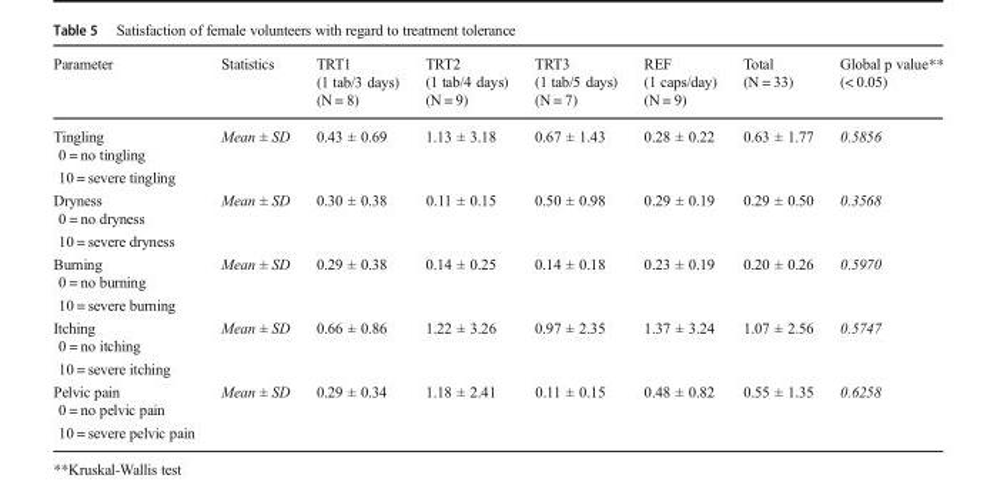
<table><thead><tr><td>Parameter</td><td>Statistics</td><td>TRT1 (1 tab/3 days) (N = 8)</td><td>TRT2 (1 tab/4 days) (N = 9)</td><td>TRT3 (1 tab/5 days) (N = 7)</td><td>REF (1 caps/day) (N = 9)</td><td>Total (N = 33)</td><td>Global p value** (&lt; 0.05)</td></tr></thead><tbody><tr><td>Tingling</td><td rowspan="3">Mean ± SD</td><td rowspan="3">0.43 ± 0.69</td><td rowspan="3">1.13 ± 3.18</td><td rowspan="3">0.67 ± 1.43</td><td rowspan="3">0.28 ± 0.22</td><td rowspan="3">0.63 ± 1.77</td><td rowspan="3">0.5856</td></tr><tr><td>0 = no tingling</td></tr><tr><td>10 = severe tingling</td></tr><tr><td>Dryness</td><td rowspan="3">Mean ± SD</td><td rowspan="3">0.30 ± 0.38</td><td rowspan="3">0.11 ± 0.15</td><td rowspan="3">0.50 ± 0.98</td><td rowspan="3">0.29 ± 0.19</td><td rowspan="3">0.29 ± 0.50</td><td rowspan="3">0.3568</td></tr><tr><td>0 = no dryness</td></tr><tr><td>10 = severe dryness</td></tr><tr><td>Burning</td><td rowspan="3">Mean ± SD</td><td rowspan="3">0.29 ± 0.38</td><td rowspan="3">0.14 ± 0.25</td><td rowspan="3">0.14 ± 0.18</td><td rowspan="3">0.23 ± 0.19</td><td rowspan="3">0.20 ± 0.26</td><td rowspan="3">0.5970</td></tr><tr><td>0 = no burning</td></tr><tr><td>10 = severe burning</td></tr><tr><td>Itching</td><td rowspan="3">Mean ± SD</td><td rowspan="3">0.66 ± 0.86</td><td rowspan="3">1.22 ± 3.26</td><td rowspan="3">0.97 ± 2.35</td><td rowspan="3">1.37 ± 3.24</td><td rowspan="3">1.07 ± 2.56</td><td rowspan="3">0.5747</td></tr><tr><td>0 = no itching</td></tr><tr><td>10 = severe itching</td></tr><tr><td>Pelvic pain</td><td rowspan="3">Mean ± SD</td><td rowspan="3">0.29 ± 0.34</td><td rowspan="3">1.18 ± 2.41</td><td rowspan="3">0.11 ± 0.15</td><td rowspan="3">0.48 ± 0.82</td><td rowspan="3">0.55 ± 1.35</td><td rowspan="3">0.6258</td></tr><tr><td>0 = no pelvic pain</td></tr><tr><td>10 = severe pelvic pain</td></tr></tbody></table>